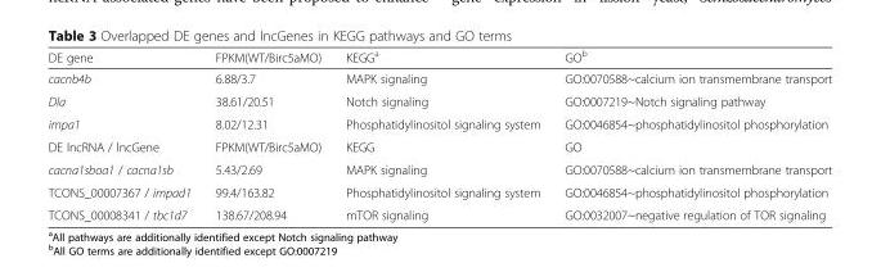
<table><thead><tr><td>DE gene</td><td>FPKM(WT/Birc5aMO)</td><td>KEGG<sup>a</sup></td><td>GO<sup>b</sup></td></tr></thead><tbody><tr><td>cacnb4b</td><td>6.88/3.7</td><td>MAPK signaling</td><td>GO:0070588~calcium ion transmembrane transport</td></tr><tr><td>Dla</td><td>38.61/20.51</td><td>Notch signaling</td><td>GO:0007219~Notch signaling pathway</td></tr><tr><td>impa1</td><td>8.02/12.31</td><td>Phosphatidylinositol signaling system</td><td>GO:0046854~phosphatidylinositol phosphorylation</td></tr><tr><td>DE lncRNA / lncGene</td><td>FPKM(WT/Birc5aMO)</td><td>KEGG</td><td>GO</td></tr><tr><td>cacna1sboa1 / cacna1sb</td><td>5.43/2.69</td><td>MAPK signaling</td><td>GO:0070588~calcium ion transmembrane transport</td></tr><tr><td>TCONS_00007367 / impad1</td><td>99.4/163.82</td><td>Phosphatidylinositol signaling system</td><td>GO:0046854~phosphatidylinositol phosphorylation</td></tr><tr><td>TCONS_00008341 / tbc1d7</td><td>138.67/208.94</td><td>mTOR signaling</td><td>GO:0032007~negative regulation of TOR signaling</td></tr></tbody></table>